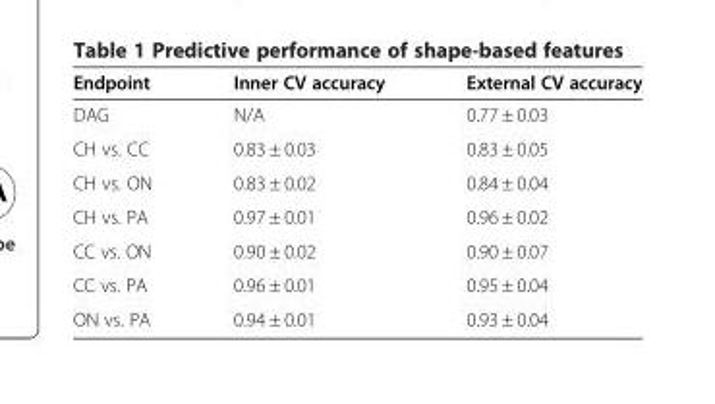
<table><thead><tr><td>Endpoint</td><td>Inner CV accuracy</td><td>External CV accuracy</td></tr></thead><tbody><tr><td>DAG</td><td>N/A</td><td>0.77 ± 0.03</td></tr><tr><td>CH vs. CC</td><td>0.83 ± 0.03</td><td>0.83 ± 0.05</td></tr><tr><td>CH vs. ON</td><td>0.83 ± 0.02</td><td>0.84 ± 0.04</td></tr><tr><td>CH vs. PA</td><td>0.97 ± 0.01</td><td>0.96 ± 0.02</td></tr><tr><td>CC vs. ON</td><td>0.90 ± 0.02</td><td>0.90 ± 0.07</td></tr><tr><td>CC vs. PA</td><td>0.96 ± 0.01</td><td>0.95 ± 0.04</td></tr><tr><td>ON vs. PA</td><td>0.94 ± 0.01</td><td>0.93 ± 0.04</td></tr></tbody></table>